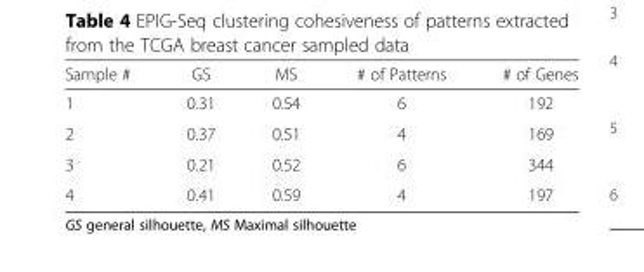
<table><thead><tr><td>Sample #</td><td>GS</td><td>MS</td><td># of Patterns</td><td># of Genes</td></tr></thead><tbody><tr><td>1</td><td>0.31</td><td>0.54</td><td>6</td><td>192</td></tr><tr><td>2</td><td>0.37</td><td>0.51</td><td>4</td><td>169</td></tr><tr><td>3</td><td>0.21</td><td>0.52</td><td>6</td><td>344</td></tr><tr><td>4</td><td>0.41</td><td>0.59</td><td>4</td><td>197</td></tr></tbody></table>